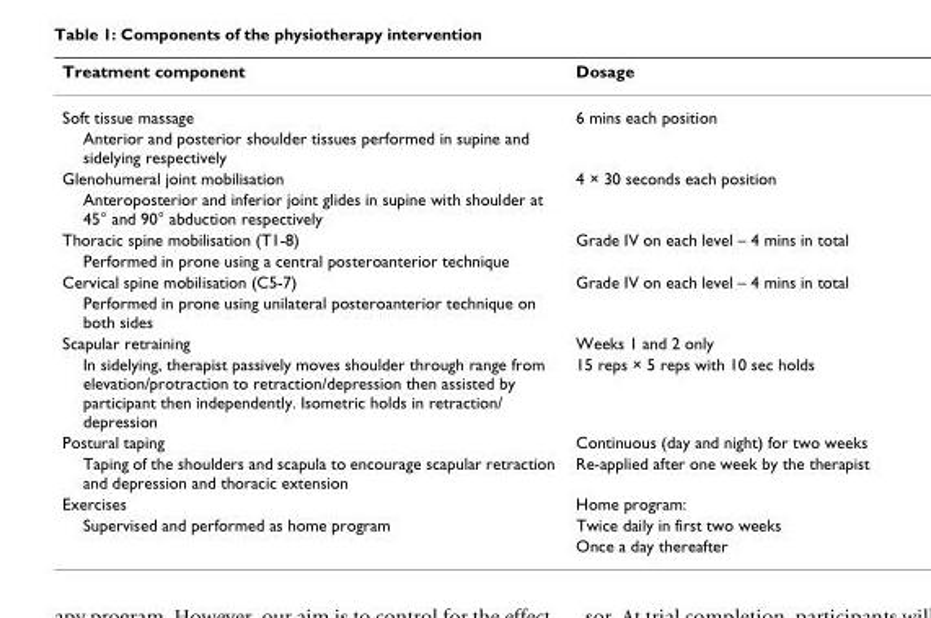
<table><thead><tr><td>Treatment component</td><td>Dosage</td></tr></thead><tbody><tr><td>Soft tissue massage</td><td>6 mins each position</td></tr><tr><td colspan="2">Anterior and posterior shoulder tissues performed in supine and sidelying respectively</td></tr><tr><td>Glenohumeral joint mobilisation</td><td>4 × 30 seconds each position</td></tr><tr><td colspan="2">Anteroposterior and inferior joint glides in supine with shoulder at 45° and 90° abduction respectively</td></tr><tr><td>Thoracic spine mobilisation (T1-8)</td><td>Grade IV on each level – 4 mins in total</td></tr><tr><td colspan="2">Performed in prone using a central posteroanterior technique</td></tr><tr><td>Cervical spine mobilisation (C5-7)</td><td>Grade IV on each level – 4 mins in total</td></tr><tr><td colspan="2">Performed in prone using unilateral posteroanterior technique on both sides</td></tr><tr><td>Scapular retraining</td><td>Weeks 1 and 2 only</td></tr><tr><td>In sidelying, therapist passively moves shoulder through range from elevation/protraction to retraction/depression then assisted by participant then independently. Isometric holds in retraction/ depression</td><td>15 reps × 5 reps with 10 sec holds</td></tr><tr><td>Postural taping</td><td>Continuous (day and night) for two weeks</td></tr><tr><td>Taping of the shoulders and scapula to encourage scapular retraction and depression and thoracic extension</td><td>Re-applied after one week by the therapist</td></tr><tr><td>Exercises</td><td>Home program:</td></tr><tr><td rowspan="2">Supervised and performed as home program</td><td>Twice daily in first two weeks</td></tr><tr><td>Once a day thereafter</td></tr></tbody></table>